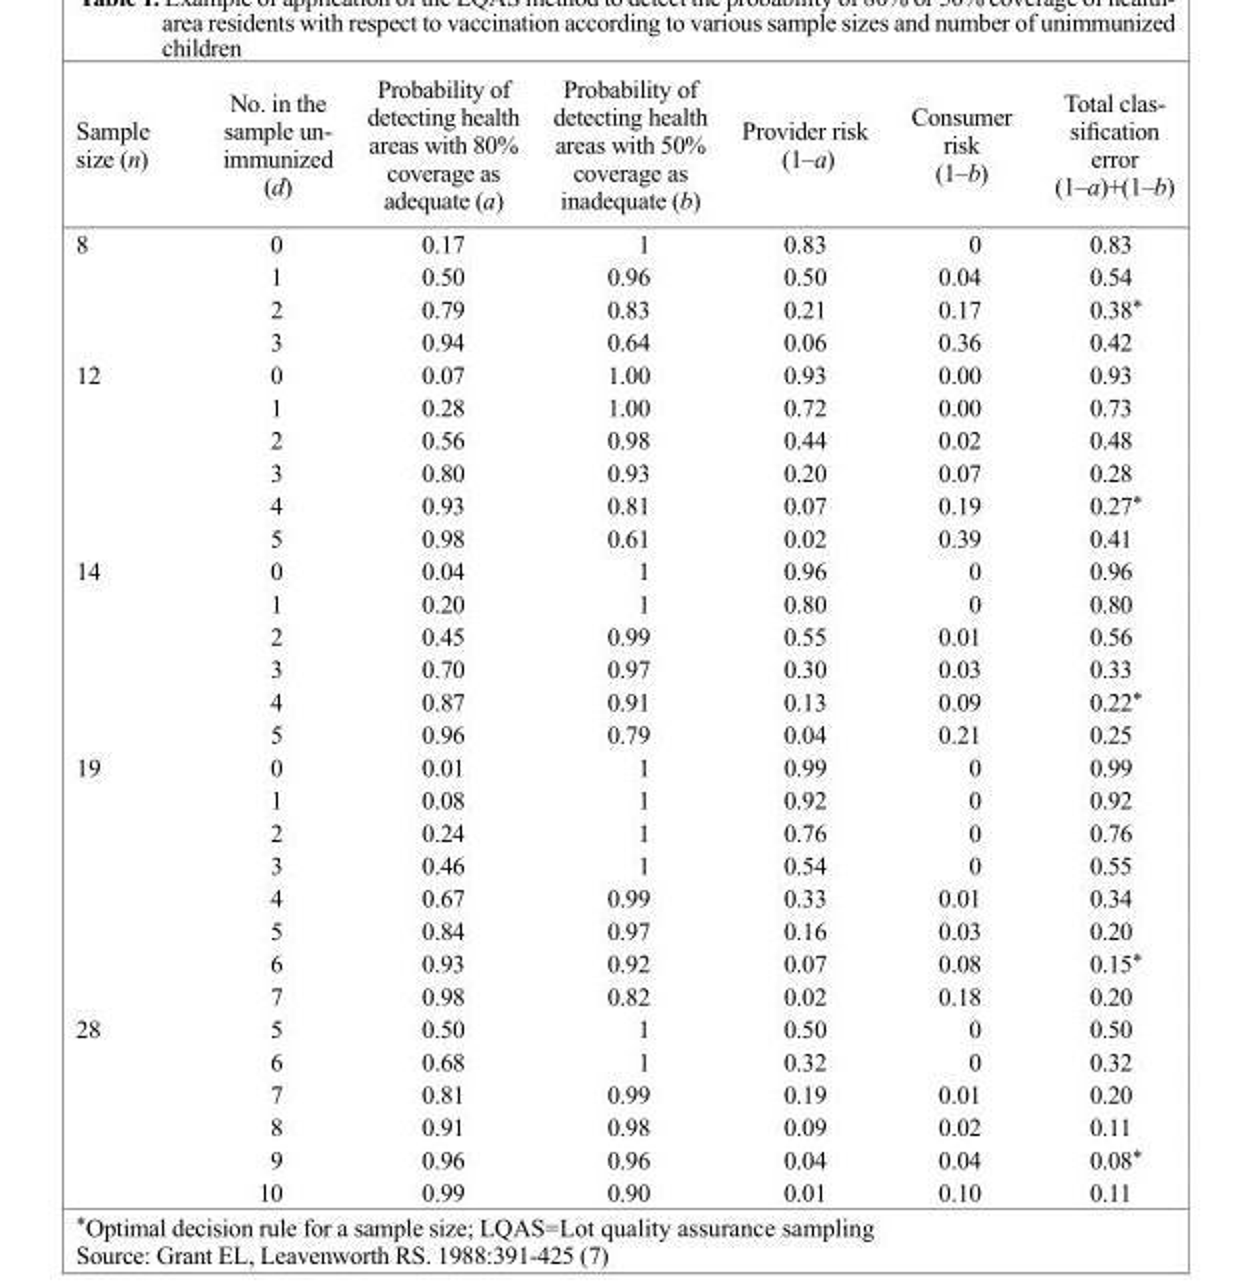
<table><thead><tr><td>Sample size (n)</td><td>No. in the sample un- immunized (d)</td><td>Probability of detecting health areas with 80% coverage as adequate (a)</td><td>Probability of detecting health areas with 50% coverage as inadequate (b)</td><td>Provider risk (1–a)</td><td>Consumer risk (1–b)</td><td>Total clas- sification error (1–a)+(1–b)</td></tr></thead><tbody><tr><td rowspan="4">8</td><td>0</td><td>0.17</td><td>1</td><td>0.83</td><td>0</td><td>0.83</td></tr><tr><td>1</td><td>0.50</td><td>0.96</td><td>0.50</td><td>0.04</td><td>0.54</td></tr><tr><td>2</td><td>0.79</td><td>0.83</td><td>0.21</td><td>0.17</td><td>0.38*</td></tr><tr><td>3</td><td>0.94</td><td>0.64</td><td>0.06</td><td>0.36</td><td>0.42</td></tr><tr><td rowspan="6">12</td><td>0</td><td>0.07</td><td>1.00</td><td>0.93</td><td>0.00</td><td>0.93</td></tr><tr><td>1</td><td>0.28</td><td>1.00</td><td>0.72</td><td>0.00</td><td>0.73</td></tr><tr><td>2</td><td>0.56</td><td>0.98</td><td>0.44</td><td>0.02</td><td>0.48</td></tr><tr><td>3</td><td>0.80</td><td>0.93</td><td>0.20</td><td>0.07</td><td>0.28</td></tr><tr><td>4</td><td>0.93</td><td>0.81</td><td>0.07</td><td>0.19</td><td>0.27*</td></tr><tr><td>5</td><td>0.98</td><td>0.61</td><td>0.02</td><td>0.39</td><td>0.41</td></tr><tr><td rowspan="6">14</td><td>0</td><td>0.04</td><td>1</td><td>0.96</td><td>0</td><td>0.96</td></tr><tr><td>1</td><td>0.20</td><td>1</td><td>0.80</td><td>0</td><td>0.80</td></tr><tr><td>2</td><td>0.45</td><td>0.99</td><td>0.55</td><td>0.01</td><td>0.56</td></tr><tr><td>3</td><td>0.70</td><td>0.97</td><td>0.30</td><td>0.03</td><td>0.33</td></tr><tr><td>4</td><td>0.87</td><td>0.91</td><td>0.13</td><td>0.09</td><td>0.22*</td></tr><tr><td>5</td><td>0.96</td><td>0.79</td><td>0.04</td><td>0.21</td><td>0.25</td></tr><tr><td rowspan="8">19</td><td>0</td><td>0.01</td><td>1</td><td>0.99</td><td>0</td><td>0.99</td></tr><tr><td>1</td><td>0.08</td><td>1</td><td>0.92</td><td>0</td><td>0.92</td></tr><tr><td>2</td><td>0.24</td><td>1</td><td>0.76</td><td>0</td><td>0.76</td></tr><tr><td>3</td><td>0.46</td><td>1</td><td>0.54</td><td>0</td><td>0.55</td></tr><tr><td>4</td><td>0.67</td><td>0.99</td><td>0.33</td><td>0.01</td><td>0.34</td></tr><tr><td>5</td><td>0.84</td><td>0.97</td><td>0.16</td><td>0.03</td><td>0.20</td></tr><tr><td>6</td><td>0.93</td><td>0.92</td><td>0.07</td><td>0.08</td><td>0.15*</td></tr><tr><td>7</td><td>0.98</td><td>0.82</td><td>0.02</td><td>0.18</td><td>0.20</td></tr><tr><td rowspan="6">28</td><td>5</td><td>0.50</td><td>1</td><td>0.50</td><td>0</td><td>0.50</td></tr><tr><td>6</td><td>0.68</td><td>1</td><td>0.32</td><td>0</td><td>0.32</td></tr><tr><td>7</td><td>0.81</td><td>0.99</td><td>0.19</td><td>0.01</td><td>0.20</td></tr><tr><td>8</td><td>0.91</td><td>0.98</td><td>0.09</td><td>0.02</td><td>0.11</td></tr><tr><td>9</td><td>0.96</td><td>0.96</td><td>0.04</td><td>0.04</td><td>0.08*</td></tr><tr><td>10</td><td>0.99</td><td>0.90</td><td>0.01</td><td>0.10</td><td>0.11</td></tr></tbody></table>